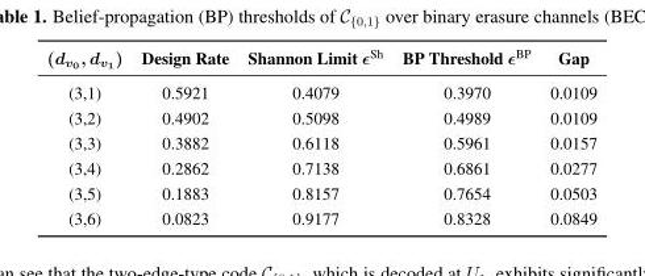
<table><thead><tr><td>(dv0, dv1)</td><td>Design Rate</td><td>Shannon Limit ϵ<sup>Sh</sup></td><td>BP Threshold ϵ<sup>BP</sup></td><td>Gap</td></tr></thead><tbody><tr><td>(3,1)</td><td>0.5921</td><td>0.4079</td><td>0.3970</td><td>0.0109</td></tr><tr><td>(3,2)</td><td>0.4902</td><td>0.5098</td><td>0.4989</td><td>0.0109</td></tr><tr><td>(3,3)</td><td>0.3882</td><td>0.6118</td><td>0.5961</td><td>0.0157</td></tr><tr><td>(3,4)</td><td>0.2862</td><td>0.7138</td><td>0.6861</td><td>0.0277</td></tr><tr><td>(3,5)</td><td>0.1883</td><td>0.8157</td><td>0.7654</td><td>0.0503</td></tr><tr><td>(3,6)</td><td>0.0823</td><td>0.9177</td><td>0.8328</td><td>0.0849</td></tr></tbody></table>